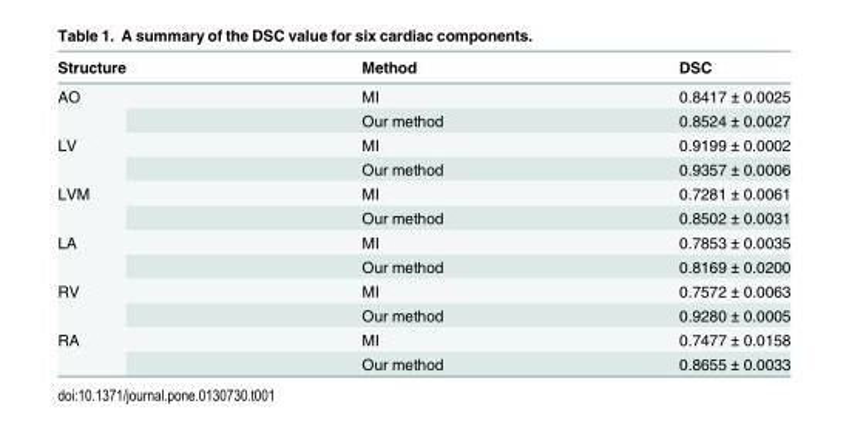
<table><thead><tr><td>Structure</td><td>Method</td><td>DSC</td></tr></thead><tbody><tr><td rowspan="2">AO</td><td>MI</td><td>0.8417 ± 0.0025</td></tr><tr><td>Our method</td><td>0.8524 ± 0.0027</td></tr><tr><td rowspan="2">LV</td><td>MI</td><td>0.9199 ± 0.0002</td></tr><tr><td>Our method</td><td>0.9357 ± 0.0006</td></tr><tr><td rowspan="2">LVM</td><td>MI</td><td>0.7281 ± 0.0061</td></tr><tr><td>Our method</td><td>0.8502 ± 0.0031</td></tr><tr><td rowspan="2">LA</td><td>MI</td><td>0.7853 ± 0.0035</td></tr><tr><td>Our method</td><td>0.8169 ± 0.0200</td></tr><tr><td rowspan="2">RV</td><td>MI</td><td>0.7572 ± 0.0063</td></tr><tr><td>Our method</td><td>0.9280 ± 0.0005</td></tr><tr><td rowspan="2">RA</td><td>MI</td><td>0.7477 ± 0.0158</td></tr><tr><td>Our method</td><td>0.8655 ± 0.0033</td></tr></tbody></table>